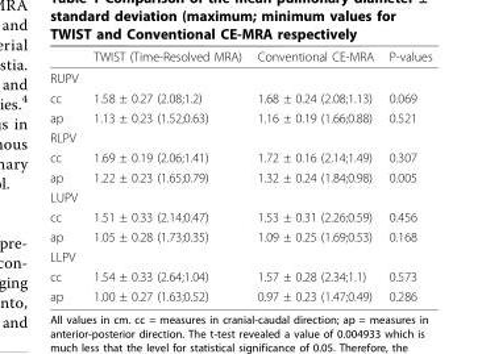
<table><thead><tr><td></td><td>TWIST (Time-Resolved MRA)</td><td>Conventional CE-MRA</td><td>P-values</td></tr></thead><tbody><tr><td colspan="4">RUPV</td></tr><tr><td>cc</td><td>1.58 ± 0.27 (2.08;1.2)</td><td>1.68 ± 0.24 (2.08;1.13)</td><td>0.069</td></tr><tr><td>ap</td><td>1.13 ± 0.23 (1.52;0.63)</td><td>1.16 ± 0.19 (1.66;0.88)</td><td>0.521</td></tr><tr><td colspan="4">RLPV</td></tr><tr><td>cc</td><td>1.69 ± 0.19 (2.06;1.41)</td><td>1.72 ± 0.16 (2.14;1.49)</td><td>0.307</td></tr><tr><td>ap</td><td>1.22 ± 0.23 (1.65;0.79)</td><td>1.32 ± 0.24 (1.84;0.98)</td><td>0.005</td></tr><tr><td colspan="4">LUPV</td></tr><tr><td>cc</td><td>1.51 ± 0.33 (2.14;0.47)</td><td>1.53 ± 0.31 (2.26;0.59)</td><td>0.456</td></tr><tr><td>ap</td><td>1.05 ± 0.28 (1.73;0.35)</td><td>1.09 ± 0.25 (1.69;0.53)</td><td>0.168</td></tr><tr><td colspan="4">LLPV</td></tr><tr><td>cc</td><td>1.54 ± 0.33 (2.64;1.04)</td><td>1.57 ± 0.28 (2.34;1.1)</td><td>0.573</td></tr><tr><td>ap</td><td>1.00 ± 0.27 (1.63;0.52)</td><td>0.97 ± 0.23 (1.47;0.49)</td><td>0.286</td></tr></tbody></table>